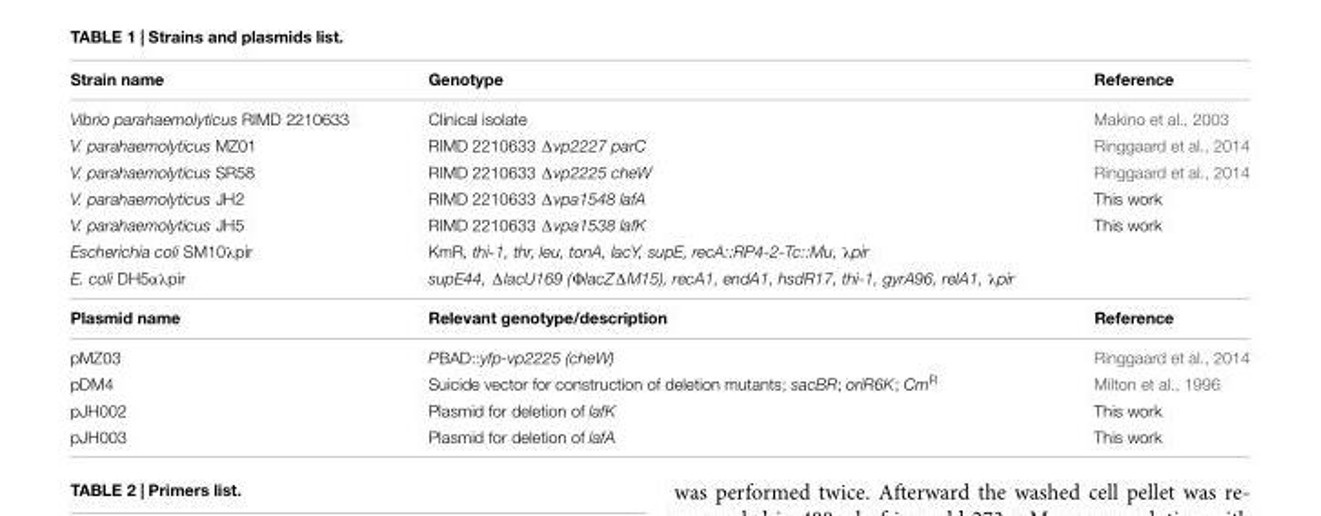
<table><thead><tr><td>Strain name</td><td>Genotype</td><td>Reference</td></tr></thead><tbody><tr><td>Vibrio parahaemolyticus RIMD 2210633</td><td>Clinical isolate</td><td>Makino et al., 2003</td></tr><tr><td>V. parahaemolyticus MZ01</td><td>RIMD 2210633 Δvp2227 parC</td><td>Ringgaard et al., 2014</td></tr><tr><td>V. parahaemolyticus SR58</td><td>RIMD 2210633 Δvp2225 cheW</td><td>Ringgaard et al., 2014</td></tr><tr><td>V. parahaemolyticus JH2</td><td>RIMD 2210633 Δvpa1548 lafA</td><td>This work</td></tr><tr><td>V. parahaemolyticus JH5</td><td>RIMD 2210633 Δvpa1538 lafK</td><td>This work</td></tr><tr><td>Escherichia coli SM10λpir</td><td>KmR, thi-1, thr, leu, tonA, lacY, supE, recA::RP4-2-Tc::Mu, λpir</td><td></td></tr><tr><td>E. coli DH5αλpir</td><td>supE44, ΔlacU169 (ΦlacZΔM15), recA1, endA1, hsdR17, thi-1, gyrA96, relA1, λpir</td><td></td></tr><tr><td>Plasmid name</td><td>Relevant genotype/description</td><td>Reference</td></tr><tr><td>pMZ03</td><td>PBAD::yfp-vp2225 (cheW)</td><td>Ringgaard et al., 2014</td></tr><tr><td>pDM4</td><td>Suicide vector for construction of deletion mutants; sacBR; oriR6K; Cm<sup>R</sup></td><td>Milton et al., 1996</td></tr><tr><td>pJH002</td><td>Plasmid for deletion of lafK</td><td>This work</td></tr><tr><td>pJH003</td><td>Plasmid for deletion of lafA</td><td>This work</td></tr></tbody></table>